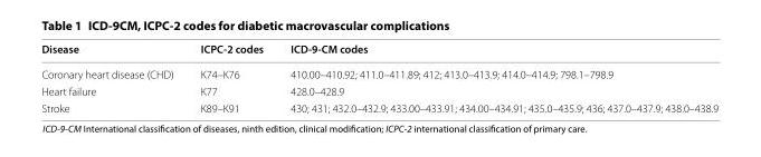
<table><thead><tr><td>Disease</td><td>ICPC‑2 codes</td><td>ICD‑9‑CM codes</td></tr></thead><tbody><tr><td>Coronary heart disease (CHD)</td><td>K74–K76</td><td>410.00–410.92; 411.0–411.89; 412; 413.0–413.9; 414.0–414.9; 798.1–798.9</td></tr><tr><td>Heart failure</td><td>K77</td><td>428.0–428.9</td></tr><tr><td>Stroke</td><td>K89–K91</td><td>430; 431; 432.0–432.9; 433.00–433.91; 434.00–434.91; 435.0–435.9; 436; 437.0–437.9; 438.0–438.9</td></tr></tbody></table>